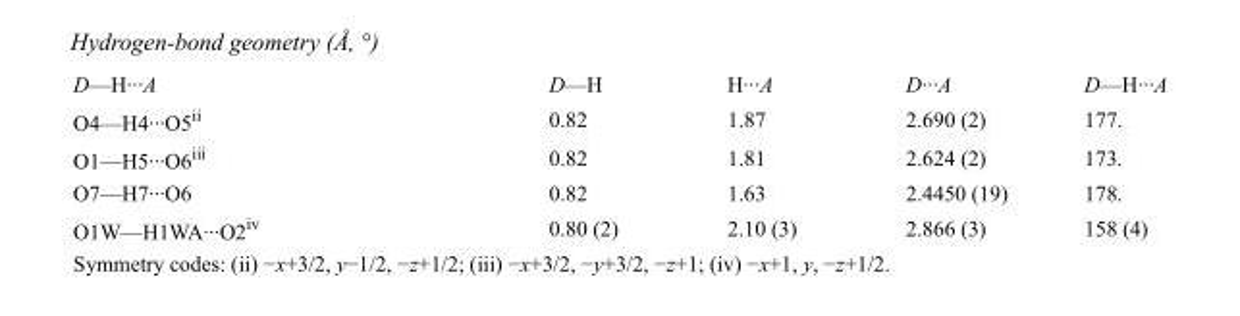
<table><tbody><tr><td>D—H···A</td><td>D—H</td><td>H···A</td><td>D···A</td><td>D—H···A</td></tr><tr><td>O4—H4···O5<sup>ii</sup></td><td>0.82</td><td>1.87</td><td>2.690 (2)</td><td>177.</td></tr><tr><td>O1—H5···O6<sup>iii</sup></td><td>0.82</td><td>1.81</td><td>2.624 (2)</td><td>173.</td></tr><tr><td>O7—H7···O6</td><td>0.82</td><td>1.63</td><td>2.4450 (19)</td><td>178.</td></tr><tr><td>O1W—H1WA···O2<sup>iv</sup></td><td>0.80 (2)</td><td>2.10 (3)</td><td>2.866 (3)</td><td>158 (4)</td></tr></tbody></table>